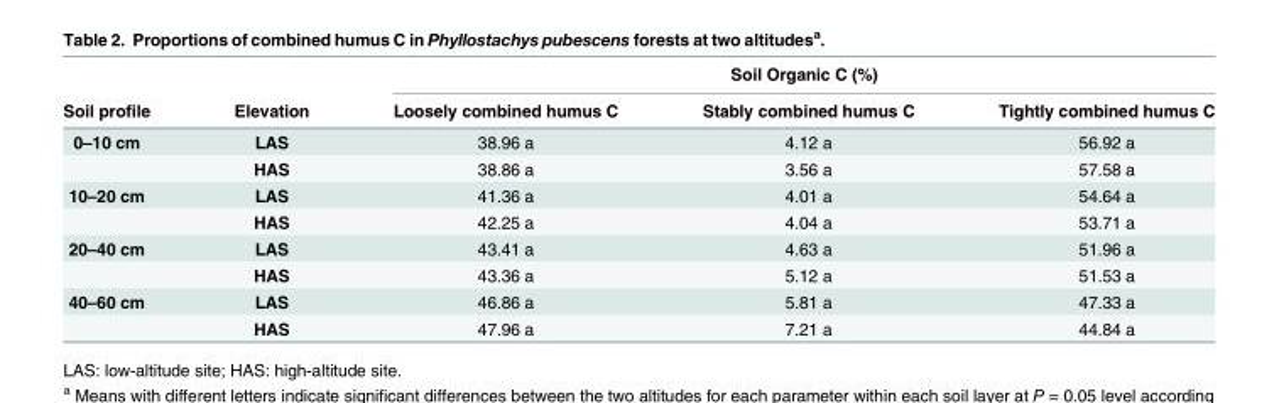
<table><thead><tr><td rowspan="2">Soil profile</td><td rowspan="2">Elevation</td><td colspan="3">Soil Organic C (%)</td></tr><tr><td>Loosely combined humus C</td><td>Stably combined humus C</td><td>Tightly combined humus C</td></tr></thead><tbody><tr><td rowspan="2">0–10 cm</td><td>LAS</td><td>38.96 a</td><td>4.12 a</td><td>56.92 a</td></tr><tr><td>HAS</td><td>38.86 a</td><td>3.56 a</td><td>57.58 a</td></tr><tr><td rowspan="2">10–20 cm</td><td>LAS</td><td>41.36 a</td><td>4.01 a</td><td>54.64 a</td></tr><tr><td>HAS</td><td>42.25 a</td><td>4.04 a</td><td>53.71 a</td></tr><tr><td rowspan="2">20–40 cm</td><td>LAS</td><td>43.41 a</td><td>4.63 a</td><td>51.96 a</td></tr><tr><td>HAS</td><td>43.36 a</td><td>5.12 a</td><td>51.53 a</td></tr><tr><td rowspan="2">40–60 cm</td><td>LAS</td><td>46.86 a</td><td>5.81 a</td><td>47.33 a</td></tr><tr><td>HAS</td><td>47.96 a</td><td>7.21 a</td><td>44.84 a</td></tr></tbody></table>